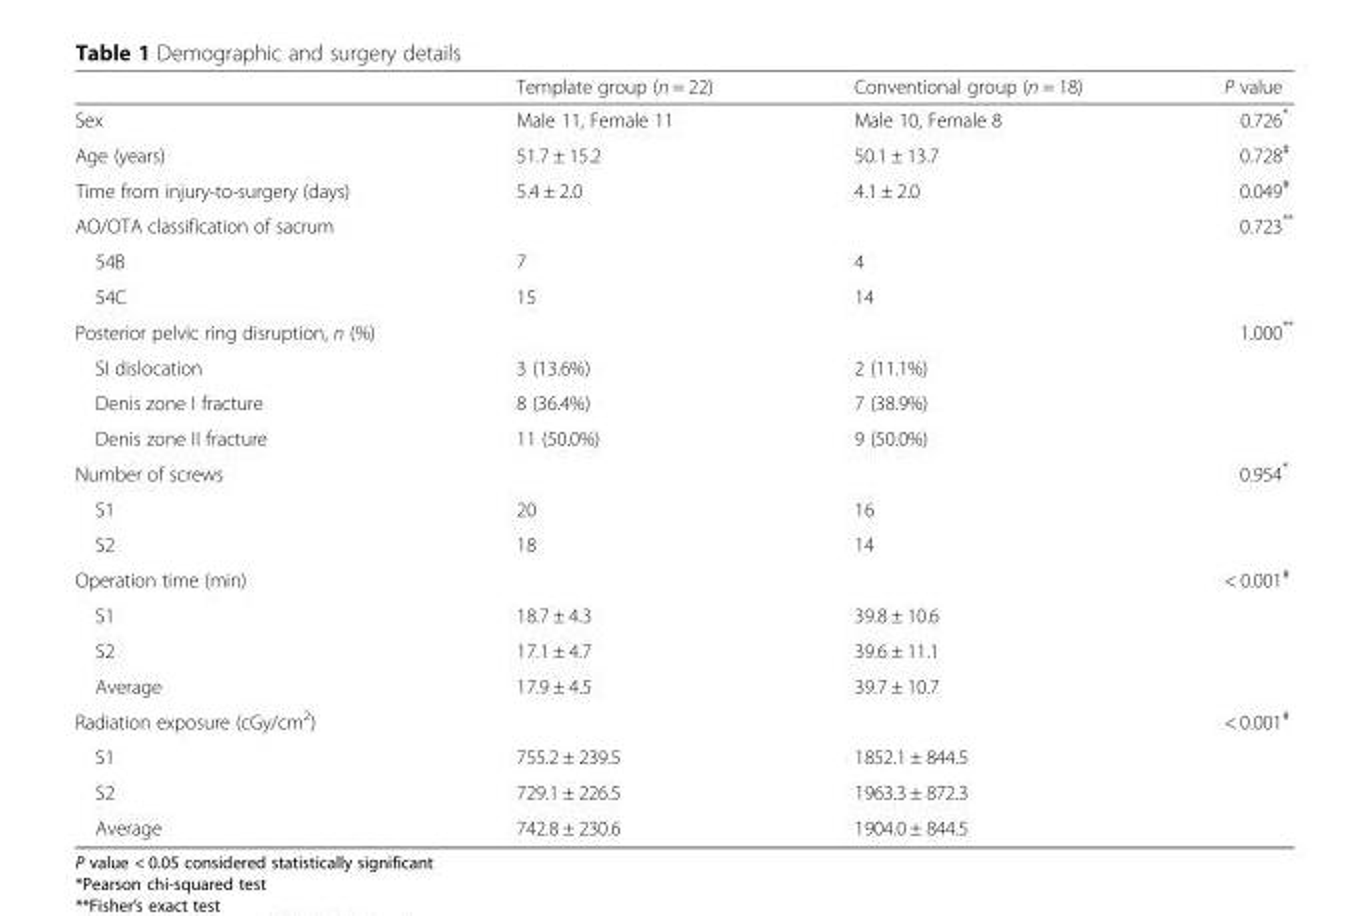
<table><thead><tr><td></td><td>Template group (n = 22)</td><td>Conventional group (n = 18)</td><td>P value</td></tr></thead><tbody><tr><td>Sex</td><td>Male 11, Female 11</td><td>Male 10, Female 8</td><td>0.726*</td></tr><tr><td>Age (years)</td><td>51.7 ± 15.2</td><td>50.1 ± 13.7</td><td>0.728<sup>#</sup></td></tr><tr><td>Time from injury-to-surgery (days)</td><td>5.4 ± 2.0</td><td>4.1 ± 2.0</td><td>0.049<sup>#</sup></td></tr><tr><td>AO/OTA classification of sacrum</td><td></td><td></td><td>0.723**</td></tr><tr><td>54B</td><td>7</td><td>4</td><td></td></tr><tr><td>54C</td><td>15</td><td>14</td><td></td></tr><tr><td>Posterior pelvic ring disruption, n (%)</td><td></td><td></td><td>1.000**</td></tr><tr><td>SI dislocation</td><td>3 (13.6%)</td><td>2 (11.1%)</td><td></td></tr><tr><td>Denis zone I fracture</td><td>8 (36.4%)</td><td>7 (38.9%)</td><td></td></tr><tr><td>Denis zone II fracture</td><td>11 (50.0%)</td><td>9 (50.0%)</td><td></td></tr><tr><td>Number of screws</td><td></td><td></td><td>0.954*</td></tr><tr><td>S1</td><td>20</td><td>16</td><td></td></tr><tr><td>S2</td><td>18</td><td>14</td><td></td></tr><tr><td>Operation time (min)</td><td></td><td></td><td>&lt; 0.001<sup>#</sup></td></tr><tr><td>S1</td><td>18.7 ± 4.3</td><td>39.8 ± 10.6</td><td></td></tr><tr><td>S2</td><td>17.1 ± 4.7</td><td>39.6 ± 11.1</td><td></td></tr><tr><td>Average</td><td>17.9 ± 4.5</td><td>39.7 ± 10.7</td><td></td></tr><tr><td>Radiation exposure (cGy/cm<sup>2</sup>)</td><td></td><td></td><td>&lt; 0.001<sup>#</sup></td></tr><tr><td>S1</td><td>755.2 ± 239.5</td><td>1852.1 ± 844.5</td><td></td></tr><tr><td>S2</td><td>729.1 ± 226.5</td><td>1963.3 ± 872.3</td><td></td></tr><tr><td>Average</td><td>742.8 ± 230.6</td><td>1904.0 ± 844.5</td><td></td></tr></tbody></table>